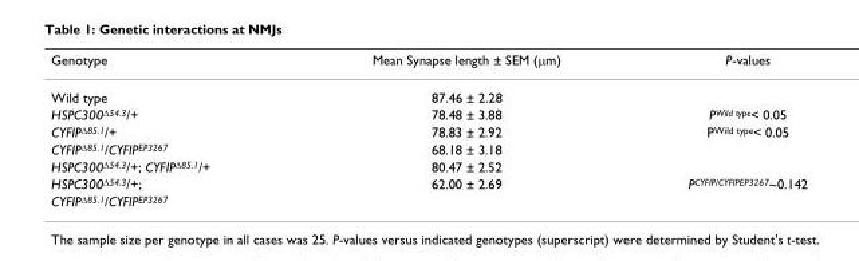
<table><thead><tr><td>Genotype</td><td>Mean Synapse length ± SEM (µm)</td><td>P-values</td></tr></thead><tbody><tr><td>Wild type</td><td>87.46 ± 2.28</td><td></td></tr><tr><td>HSPC300∆54.3/+</td><td>78.48 ± 3.88</td><td>PWild type&lt; 0.05</td></tr><tr><td>CYFIP∆85.1/+</td><td>78.83 ± 2.92</td><td>PWild type&lt; 0.05</td></tr><tr><td>CYFIP∆85.1/CYFIPEP3267</td><td>68.18 ± 3.18</td><td></td></tr><tr><td>HSPC300∆54.3/+; CYFIP∆85.1/+</td><td>80.47 ± 2.52</td><td></td></tr><tr><td>HSPC300∆54.3/+;</td><td>62.00 ± 2.69</td><td>P<sup>CYFIP/CYFIPEP3267</sup>~0.142</td></tr><tr><td>CYFIP∆85.1/CYFIPEP3267</td><td></td><td></td></tr></tbody></table>